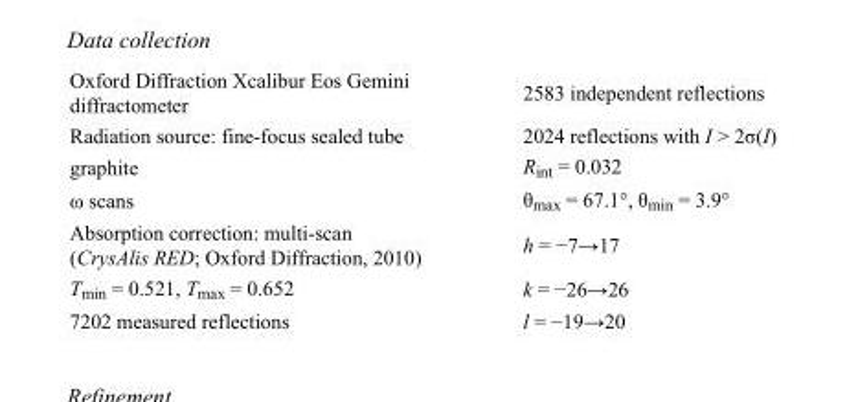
<table><tbody><tr><td>Oxford Diffraction Xcalibur Eos Gemini diffractometer</td><td>2583 independent reflections</td></tr><tr><td>Radiation source: fine-focus sealed tube</td><td>2024 reflections with I &gt; 2σ(I)</td></tr><tr><td>graphite</td><td>R<sub>int</sub> = 0.032</td></tr><tr><td>ω scans</td><td>θ<sub>max</sub> = 67.1°, θ<sub>min</sub> = 3.9°</td></tr><tr><td>Absorption correction: multi-scan (CrysAlis RED; Oxford Diffraction, 2010)</td><td>h = −7→17</td></tr><tr><td>T<sub>min</sub> = 0.521, T<sub>max</sub> = 0.652</td><td>k = −26→26</td></tr><tr><td>7202 measured reflections</td><td>l = −19→20</td></tr></tbody></table>